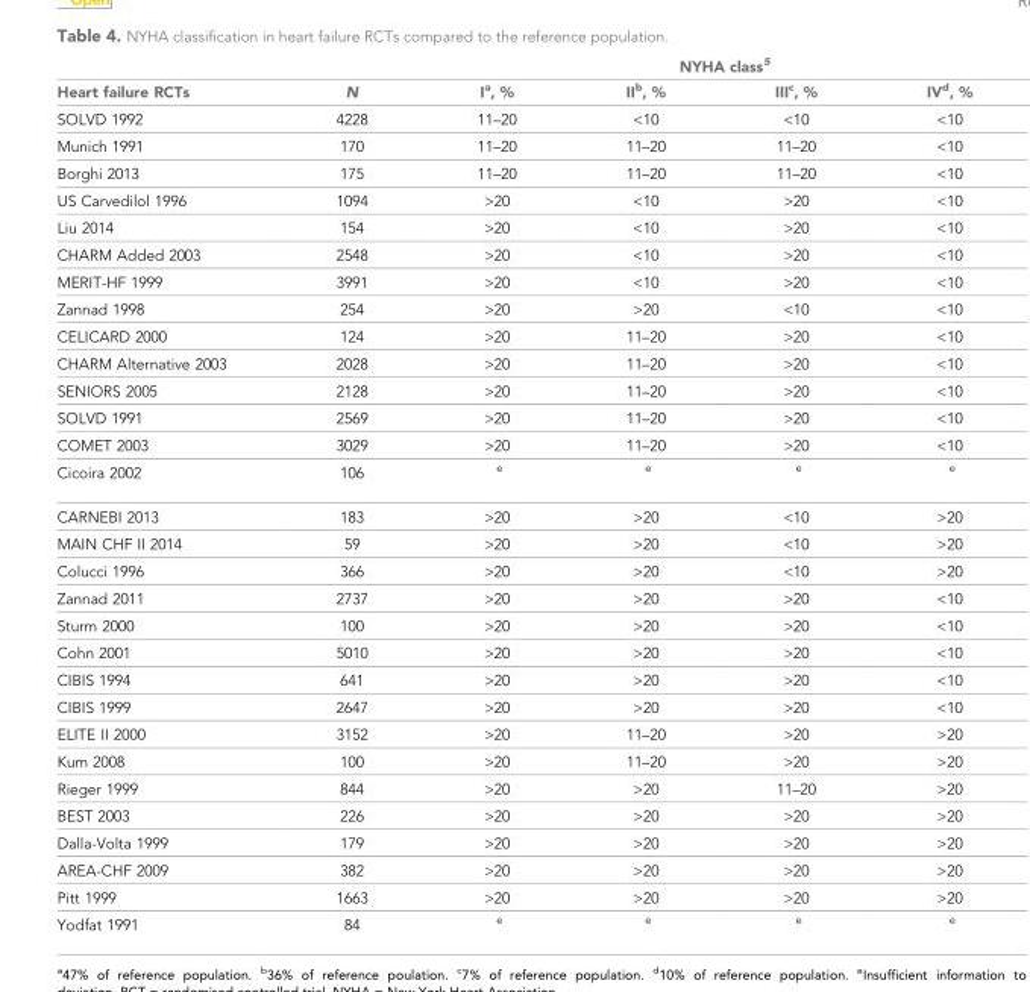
<table><thead><tr><td rowspan="2">Heart failure RCTs</td><td rowspan="2">N</td><td colspan="4">NYHA class<sup>5</sup></td></tr><tr><td>I<sup>a</sup>, %</td><td>II<sup>b</sup>, %</td><td>III<sup>c</sup>, %</td><td>IV<sup>d</sup>, %</td></tr></thead><tbody><tr><td>SOLVD 1992</td><td>4228</td><td>11–20</td><td>&lt;10</td><td>&lt;10</td><td>&lt;10</td></tr><tr><td>Munich 1991</td><td>170</td><td>11–20</td><td>11–20</td><td>11–20</td><td>&lt;10</td></tr><tr><td>Borghi 2013</td><td>175</td><td>11–20</td><td>11–20</td><td>11–20</td><td>&lt;10</td></tr><tr><td>US Carvedilol 1996</td><td>1094</td><td>&gt;20</td><td>&lt;10</td><td>&gt;20</td><td>&lt;10</td></tr><tr><td>Liu 2014</td><td>154</td><td>&gt;20</td><td>&lt;10</td><td>&gt;20</td><td>&lt;10</td></tr><tr><td>CHARM Added 2003</td><td>2548</td><td>&gt;20</td><td>&lt;10</td><td>&gt;20</td><td>&lt;10</td></tr><tr><td>MERIT-HF 1999</td><td>3991</td><td>&gt;20</td><td>&lt;10</td><td>&gt;20</td><td>&lt;10</td></tr><tr><td>Zannad 1998</td><td>254</td><td>&gt;20</td><td>&gt;20</td><td>&lt;10</td><td>&lt;10</td></tr><tr><td>CELICARD 2000</td><td>124</td><td>&gt;20</td><td>11–20</td><td>&gt;20</td><td>&lt;10</td></tr><tr><td>CHARM Alternative 2003</td><td>2028</td><td>&gt;20</td><td>11–20</td><td>&gt;20</td><td>&lt;10</td></tr><tr><td>SENIORS 2005</td><td>2128</td><td>&gt;20</td><td>11–20</td><td>&gt;20</td><td>&lt;10</td></tr><tr><td>SOLVD 1991</td><td>2569</td><td>&gt;20</td><td>11–20</td><td>&gt;20</td><td>&lt;10</td></tr><tr><td>COMET 2003</td><td>3029</td><td>&gt;20</td><td>11–20</td><td>&gt;20</td><td>&lt;10</td></tr><tr><td>Cicoira 2002</td><td>106</td><td><sup>e</sup></td><td><sup>e</sup></td><td><sup>e</sup></td><td><sup>e</sup></td></tr><tr><td>CARNEBI 2013</td><td>183</td><td>&gt;20</td><td>&gt;20</td><td>&lt;10</td><td>&gt;20</td></tr><tr><td>MAIN CHF II 2014</td><td>59</td><td>&gt;20</td><td>&gt;20</td><td>&lt;10</td><td>&gt;20</td></tr><tr><td>Colucci 1996</td><td>366</td><td>&gt;20</td><td>&gt;20</td><td>&lt;10</td><td>&gt;20</td></tr><tr><td>Zannad 2011</td><td>2737</td><td>&gt;20</td><td>&gt;20</td><td>&gt;20</td><td>&lt;10</td></tr><tr><td>Sturm 2000</td><td>100</td><td>&gt;20</td><td>&gt;20</td><td>&gt;20</td><td>&lt;10</td></tr><tr><td>Cohn 2001</td><td>5010</td><td>&gt;20</td><td>&gt;20</td><td>&gt;20</td><td>&lt;10</td></tr><tr><td>CIBIS 1994</td><td>641</td><td>&gt;20</td><td>&gt;20</td><td>&gt;20</td><td>&lt;10</td></tr><tr><td>CIBIS 1999</td><td>2647</td><td>&gt;20</td><td>&gt;20</td><td>&gt;20</td><td>&lt;10</td></tr><tr><td>ELITE II 2000</td><td>3152</td><td>&gt;20</td><td>11–20</td><td>&gt;20</td><td>&gt;20</td></tr><tr><td>Kum 2008</td><td>100</td><td>&gt;20</td><td>11–20</td><td>&gt;20</td><td>&gt;20</td></tr><tr><td>Rieger 1999</td><td>844</td><td>&gt;20</td><td>&gt;20</td><td>11–20</td><td>&gt;20</td></tr><tr><td>BEST 2003</td><td>226</td><td>&gt;20</td><td>&gt;20</td><td>&gt;20</td><td>&gt;20</td></tr><tr><td>Dalla-Volta 1999</td><td>179</td><td>&gt;20</td><td>&gt;20</td><td>&gt;20</td><td>&gt;20</td></tr><tr><td>AREA-CHF 2009</td><td>382</td><td>&gt;20</td><td>&gt;20</td><td>&gt;20</td><td>&gt;20</td></tr><tr><td>Pitt 1999</td><td>1663</td><td>&gt;20</td><td>&gt;20</td><td>&gt;20</td><td>&gt;20</td></tr><tr><td>Yodfat 1991</td><td>84</td><td><sup>e</sup></td><td><sup>e</sup></td><td><sup>e</sup></td><td><sup>e</sup></td></tr></tbody></table>